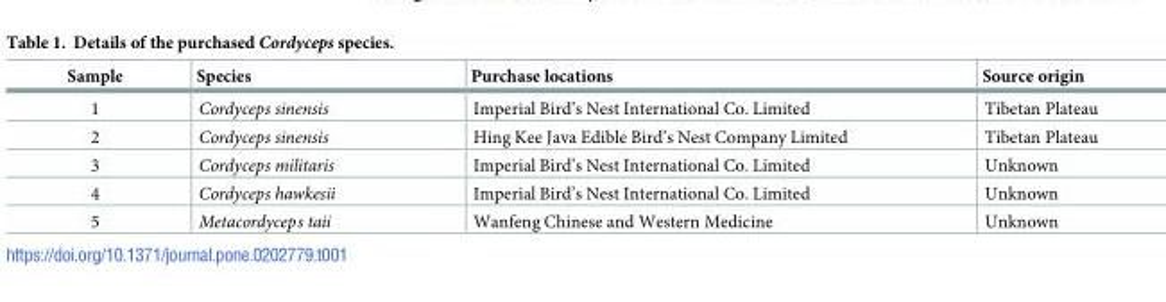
<table><thead><tr><td>Sample</td><td>Species</td><td>Purchase locations</td><td>Source origin</td></tr></thead><tbody><tr><td>1</td><td>Cordyceps sinensis</td><td>Imperial Bird’s Nest International Co. Limited</td><td>Tibetan Plateau</td></tr><tr><td>2</td><td>Cordyceps sinensis</td><td>Hing Kee Java Edible Bird’s Nest Company Limited</td><td>Tibetan Plateau</td></tr><tr><td>3</td><td>Cordyceps militaris</td><td>Imperial Bird’s Nest International Co. Limited</td><td>Unknown</td></tr><tr><td>4</td><td>Cordyceps hawkesii</td><td>Imperial Bird’s Nest International Co. Limited</td><td>Unknown</td></tr><tr><td>5</td><td>Metacordyceps taii</td><td>Wanfeng Chinese and Western Medicine</td><td>Unknown</td></tr></tbody></table>